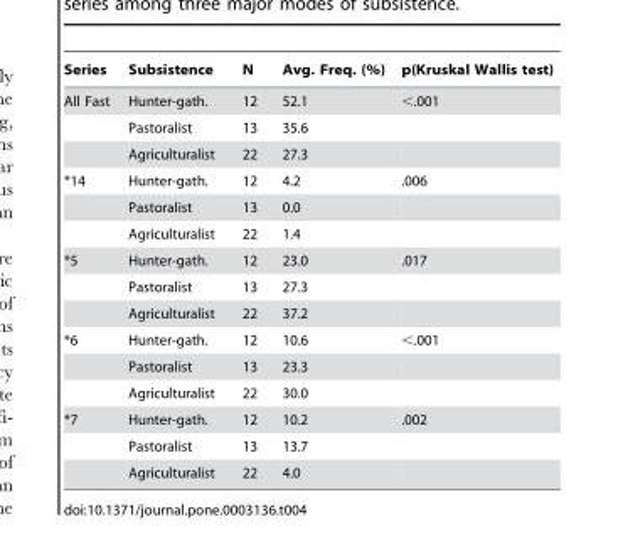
<table><thead><tr><td>Series</td><td>Subsistence</td><td>N</td><td>Avg. Freq. (%)</td><td>p(Kruskal Wallis test)</td></tr></thead><tbody><tr><td rowspan="3">All Fast</td><td>Hunter-gath.</td><td>12</td><td>52.1</td><td>&lt;.001</td></tr><tr><td>Pastoralist</td><td>13</td><td>35.6</td><td></td></tr><tr><td>Agriculturalist</td><td>22</td><td>27.3</td><td></td></tr><tr><td rowspan="3">*14</td><td>Hunter-gath.</td><td>12</td><td>4.2</td><td>.006</td></tr><tr><td>Pastoralist</td><td>13</td><td>0.0</td><td></td></tr><tr><td>Agriculturalist</td><td>22</td><td>1.4</td><td></td></tr><tr><td rowspan="3">*5</td><td>Hunter-gath.</td><td>12</td><td>23.0</td><td>.017</td></tr><tr><td>Pastoralist</td><td>13</td><td>27.3</td><td></td></tr><tr><td>Agriculturalist</td><td>22</td><td>37.2</td><td></td></tr><tr><td rowspan="3">*6</td><td>Hunter-gath.</td><td>12</td><td>10.6</td><td>&lt;.001</td></tr><tr><td>Pastoralist</td><td>13</td><td>23.3</td><td></td></tr><tr><td>Agriculturalist</td><td>22</td><td>30.0</td><td></td></tr><tr><td rowspan="3">*7</td><td>Hunter-gath.</td><td>12</td><td>10.2</td><td>.002</td></tr><tr><td>Pastoralist</td><td>13</td><td>13.7</td><td></td></tr><tr><td>Agriculturalist</td><td>22</td><td>4.0</td><td></td></tr></tbody></table>